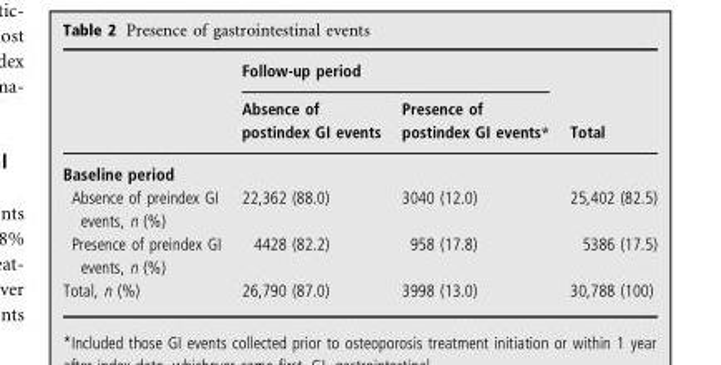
<table><thead><tr><td rowspan="2"></td><td colspan="2">Follow-up period</td><td rowspan="2">Total</td></tr><tr><td>Absence of postindex GI events</td><td>Presence of postindex GI events*</td></tr></thead><tbody><tr><td colspan="4">Baseline period</td></tr><tr><td>Absence of preindex GI events, n (%)</td><td>22,362 (88.0)</td><td>3040 (12.0)</td><td>25,402 (82.5)</td></tr><tr><td>Presence of preindex GI events, n (%)</td><td>4428 (82.2)</td><td>958 (17.8)</td><td>5386 (17.5)</td></tr><tr><td>Total, n (%)</td><td>26,790 (87.0)</td><td>3998 (13.0)</td><td>30,788 (100)</td></tr></tbody></table>